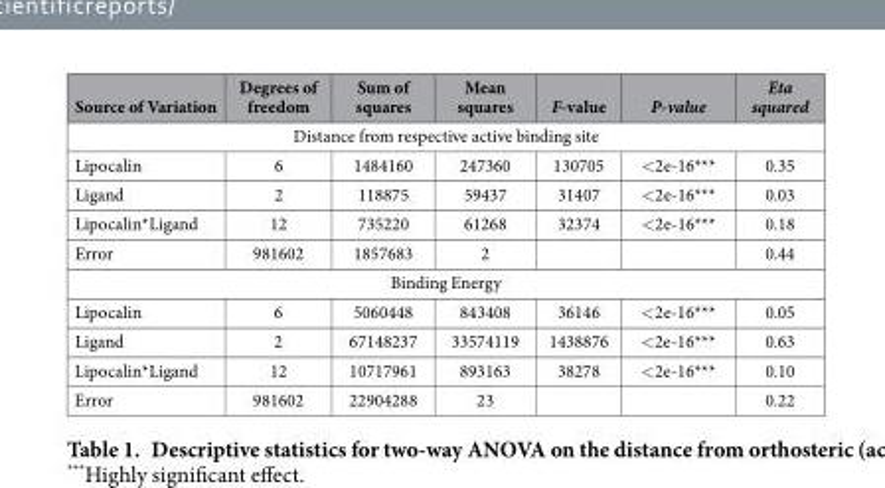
<table><thead><tr><td>Source of Variation</td><td>Degrees of freedom</td><td>Sum of squares</td><td>Mean squares</td><td>F-value</td><td>P-value</td><td>Eta squared</td></tr></thead><tbody><tr><td colspan="7">Distance from respective active binding site</td></tr><tr><td>Lipocalin</td><td>6</td><td>1484160</td><td>247360</td><td>130705</td><td>&lt; 2e-16***</td><td>0.35</td></tr><tr><td>Ligand</td><td>2</td><td>118875</td><td>59437</td><td>31407</td><td>&lt; 2e-16***</td><td>0.03</td></tr><tr><td>Lipocalin*Ligand</td><td>12</td><td>735220</td><td>61268</td><td>32374</td><td>&lt; 2e-16***</td><td>0.18</td></tr><tr><td>Error</td><td>981602</td><td>1857683</td><td>2</td><td></td><td></td><td>0.44</td></tr><tr><td colspan="7">Binding Energy</td></tr><tr><td>Lipocalin</td><td>6</td><td>5060448</td><td>843408</td><td>36146</td><td>&lt; 2e-16***</td><td>0.05</td></tr><tr><td>Ligand</td><td>2</td><td>67148237</td><td>33574119</td><td>1438876</td><td>&lt; 2e-16***</td><td>0.63</td></tr><tr><td>Lipocalin*Ligand</td><td>12</td><td>10717961</td><td>893163</td><td>38278</td><td>&lt; 2e-16***</td><td>0.10</td></tr><tr><td>Error</td><td>981602</td><td>22904288</td><td>23</td><td></td><td></td><td>0.22</td></tr></tbody></table>